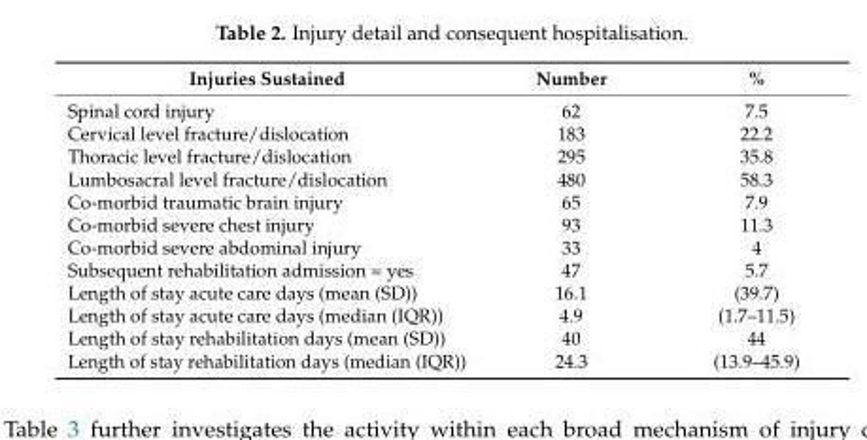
<table><thead><tr><td>Injuries Sustained</td><td>Number</td><td>%</td></tr></thead><tbody><tr><td>Spinal cord injury</td><td>62</td><td>7.5</td></tr><tr><td>Cervical level fracture/dislocation</td><td>183</td><td>22.2</td></tr><tr><td>Thoracic level fracture/dislocation</td><td>295</td><td>35.8</td></tr><tr><td>Lumbosacral level fracture/dislocation</td><td>480</td><td>58.3</td></tr><tr><td>Co-morbid traumatic brain injury</td><td>65</td><td>7.9</td></tr><tr><td>Co-morbid severe chest injury</td><td>93</td><td>11.3</td></tr><tr><td>Co-morbid severe abdominal injury</td><td>33</td><td>4</td></tr><tr><td>Subsequent rehabilitation admission = yes</td><td>47</td><td>5.7</td></tr><tr><td>Length of stay acute care days (mean (SD))</td><td>16.1</td><td>(39.7)</td></tr><tr><td>Length of stay acute care days (median (IQR))</td><td>4.9</td><td>(1.7–11.5)</td></tr><tr><td>Length of stay rehabilitation days (mean (SD))</td><td>40</td><td>44</td></tr><tr><td>Length of stay rehabilitation days (median (IQR))</td><td>24.3</td><td>(13.9–45.9)</td></tr></tbody></table>